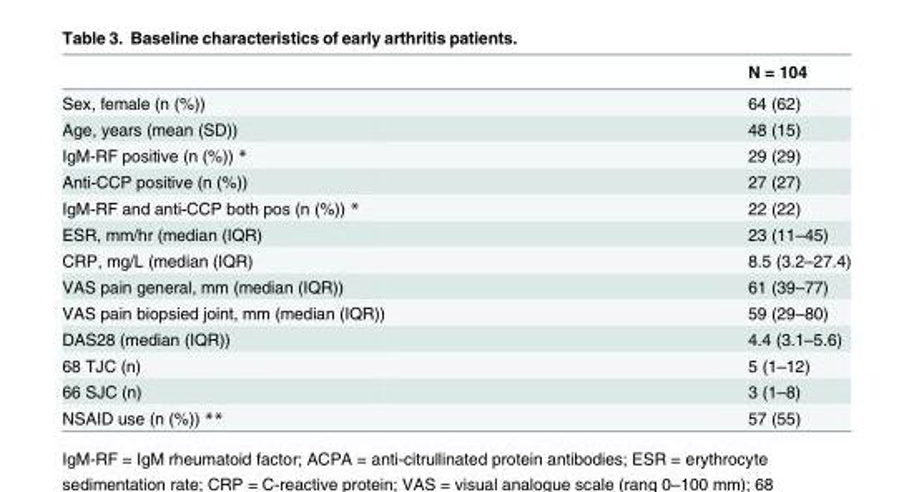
<table><thead><tr><td></td><td>N = 104</td></tr></thead><tbody><tr><td>Sex, female (n (%))</td><td>64 (62)</td></tr><tr><td>Age, years (mean (SD))</td><td>48 (15)</td></tr><tr><td>IgM-RF positive (n (%)) *</td><td>29 (29)</td></tr><tr><td>Anti-CCP positive (n (%))</td><td>27 (27)</td></tr><tr><td>IgM-RF and anti-CCP both pos (n (%)) *</td><td>22 (22)</td></tr><tr><td>ESR, mm/hr (median (IQR)</td><td>23 (11–45)</td></tr><tr><td>CRP, mg/L (median (IQR)</td><td>8.5 (3.2–27.4)</td></tr><tr><td>VAS pain general, mm (median (IQR))</td><td>61 (39–77)</td></tr><tr><td>VAS pain biopsied joint, mm (median (IQR))</td><td>59 (29–80)</td></tr><tr><td>DAS28 (median (IQR))</td><td>4.4 (3.1–5.6)</td></tr><tr><td>68 TJC (n)</td><td>5 (1–12)</td></tr><tr><td>66 SJC (n)</td><td>3 (1–8)</td></tr><tr><td>NSAID use (n (%)) **</td><td>57 (55)</td></tr></tbody></table>